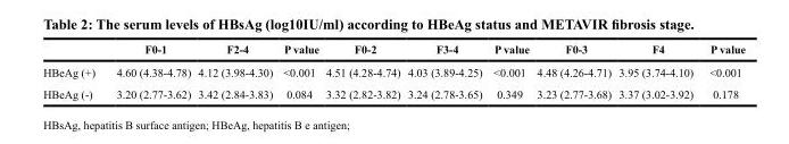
<table><thead><tr><td></td><td>F0-1</td><td>F2-4</td><td>P value</td><td>F0-2</td><td>F3-4</td><td>P value</td><td>F0-3</td><td>F4</td><td>P value</td></tr></thead><tbody><tr><td>HBeAg (+)</td><td>4.60 (4.38-4.78)</td><td>4.12 (3.98-4.30)</td><td>&lt;0.001</td><td>4.51 (4.28-4.74)</td><td>4.03 (3.89-4.25)</td><td>&lt;0.001</td><td>4.48 (4.26-4.71)</td><td>3.95 (3.74-4.10)</td><td>&lt;0.001</td></tr><tr><td>HBeAg (-)</td><td>3.20 (2.77-3.62)</td><td>3.42 (2.84-3.83)</td><td>0.084</td><td>3.32 (2.82-3.82)</td><td>3.24 (2.78-3.65)</td><td>0.349</td><td>3.23 (2.77-3.68)</td><td>3.37 (3.02-3.92)</td><td>0.178</td></tr></tbody></table>